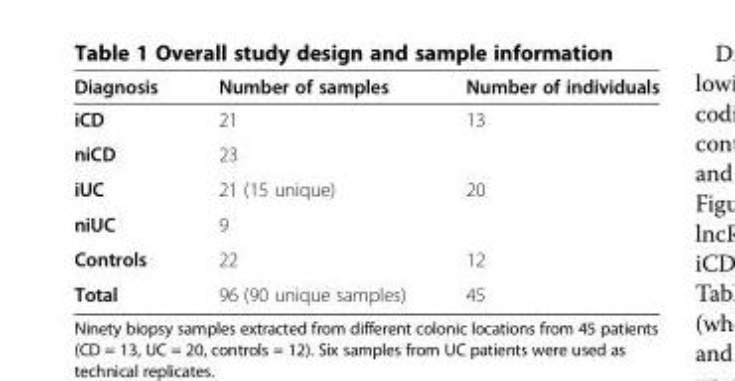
<table><thead><tr><td>Diagnosis</td><td>Number of samples</td><td>Number of individuals</td></tr></thead><tbody><tr><td>iCD</td><td>21</td><td rowspan="2">13</td></tr><tr><td>niCD</td><td>23</td></tr><tr><td>iUC</td><td>21 (15 unique)</td><td rowspan="2">20</td></tr><tr><td>niUC</td><td>9</td></tr><tr><td>Controls</td><td>22</td><td>12</td></tr><tr><td>Total</td><td>96 (90 unique samples)</td><td>45</td></tr></tbody></table>